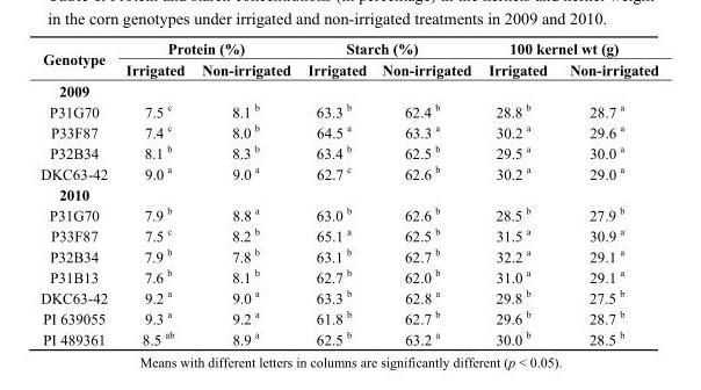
<table><thead><tr><td rowspan="2">Genotype</td><td colspan="2">Protein (%)</td><td colspan="2">Starch (%)</td><td colspan="2">100 kernel wt (g)</td></tr><tr><td>Irrigated</td><td>Non-irrigated</td><td>Irrigated</td><td>Non-irrigated</td><td>Irrigated</td><td>Non-irrigated</td></tr></thead><tbody><tr><td colspan="7">2009</td></tr><tr><td>P31G70</td><td>7.5 <sup>c</sup></td><td>8.1 <sup>b</sup></td><td>63.3 <sup>b</sup></td><td>62.4 <sup>b</sup></td><td>28.8 <sup>b</sup></td><td>28.7 <sup>a</sup></td></tr><tr><td>P33F87</td><td>7.4 <sup>c</sup></td><td>8.0 <sup>b</sup></td><td>64.5 <sup>a</sup></td><td>63.3 <sup>a</sup></td><td>30.2 <sup>a</sup></td><td>29.6 <sup>a</sup></td></tr><tr><td>P32B34</td><td>8.1 <sup>b</sup></td><td>8.3 <sup>b</sup></td><td>63.4 <sup>b</sup></td><td>62.5 <sup>b</sup></td><td>29.5 <sup>a</sup></td><td>30.0 <sup>a</sup></td></tr><tr><td>DKC63-42</td><td>9.0 <sup>a</sup></td><td>9.0 <sup>a</sup></td><td>62.7 <sup>c</sup></td><td>62.6 <sup>b</sup></td><td>30.2 <sup>a</sup></td><td>29.0 <sup>a</sup></td></tr><tr><td colspan="7">2010</td></tr><tr><td>P31G70</td><td>7.9 <sup>b</sup></td><td>8.8 <sup>a</sup></td><td>63.0 <sup>b</sup></td><td>62.6 <sup>b</sup></td><td>28.5 <sup>b</sup></td><td>27.9 <sup>b</sup></td></tr><tr><td>P33F87</td><td>7.5 <sup>c</sup></td><td>8.2 <sup>b</sup></td><td>65.1 <sup>a</sup></td><td>62.5 <sup>b</sup></td><td>31.5 <sup>a</sup></td><td>30.9 <sup>a</sup></td></tr><tr><td>P32B34</td><td>7.9 <sup>b</sup></td><td>7.8 <sup>b</sup></td><td>63.1 <sup>b</sup></td><td>62.7 <sup>b</sup></td><td>32.2 <sup>a</sup></td><td>29.1 <sup>a</sup></td></tr><tr><td>P31B13</td><td>7.6 <sup>b</sup></td><td>8.1 <sup>b</sup></td><td>62.7 <sup>b</sup></td><td>62.0 <sup>b</sup></td><td>31.0 <sup>a</sup></td><td>29.1 <sup>a</sup></td></tr><tr><td>DKC63-42</td><td>9.2 <sup>a</sup></td><td>9.0 <sup>a</sup></td><td>63.3 <sup>b</sup></td><td>62.8 <sup>a</sup></td><td>29.8 <sup>b</sup></td><td>27.5 <sup>b</sup></td></tr><tr><td>PI 639055</td><td>9.3 <sup>a</sup></td><td>9.2 <sup>a</sup></td><td>61.8 <sup>b</sup></td><td>62.7 <sup>b</sup></td><td>29.6 <sup>b</sup></td><td>28.7 <sup>b</sup></td></tr><tr><td>PI 489361</td><td>8.5 <sup>ab</sup></td><td>8.9 <sup>a</sup></td><td>62.5 <sup>b</sup></td><td>63.2 <sup>a</sup></td><td>30.0 <sup>b</sup></td><td>28.5 <sup>b</sup></td></tr></tbody></table>